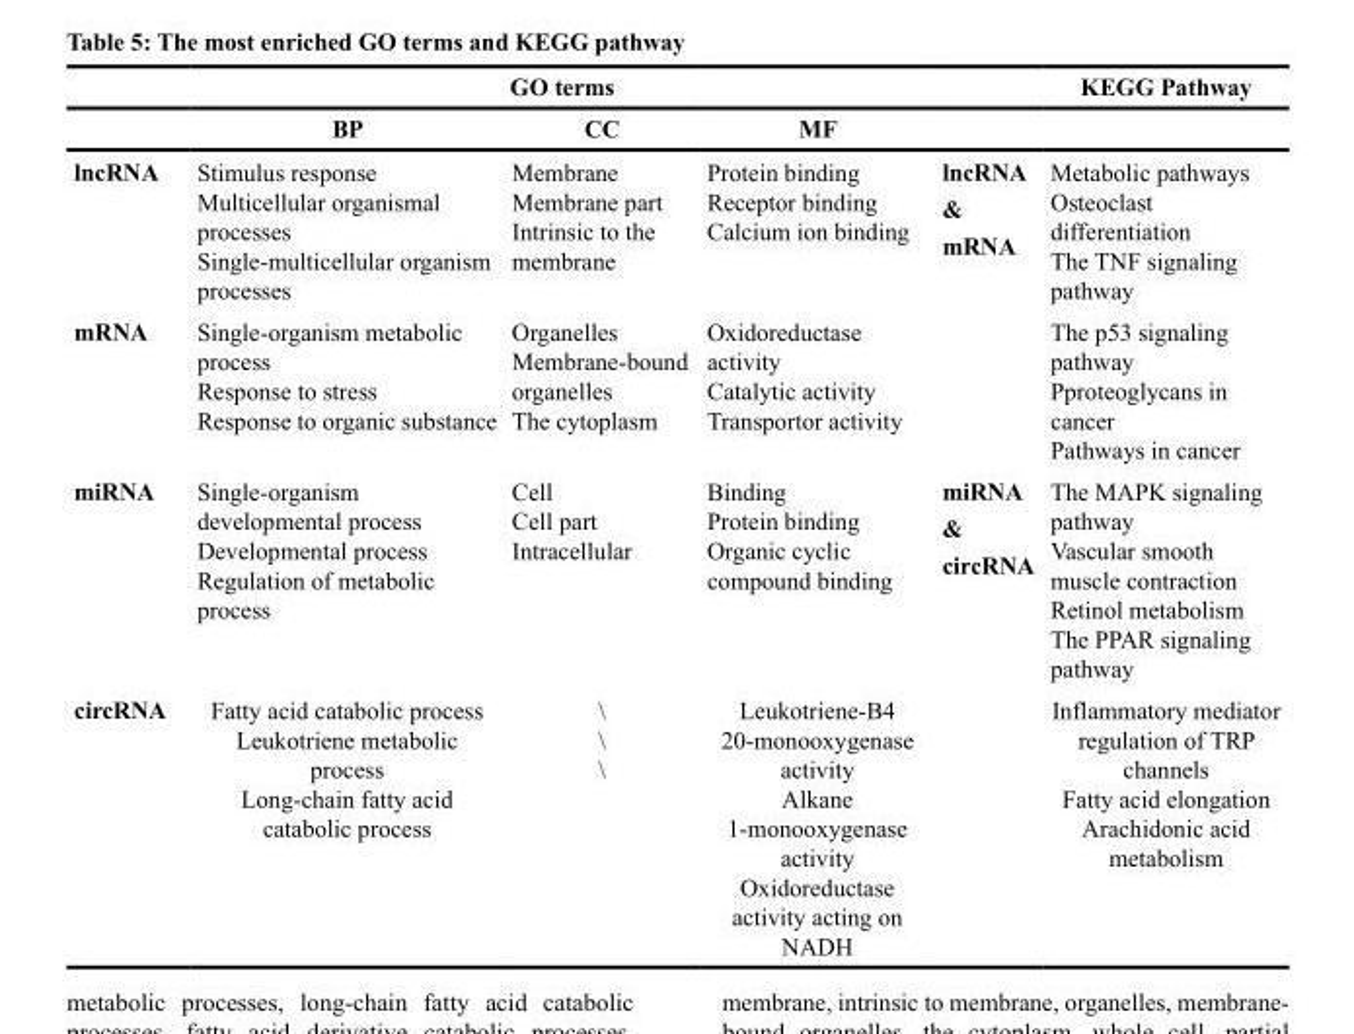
<table><thead><tr><td rowspan="2"></td><td colspan="3">GO terms</td><td rowspan="2"></td><td rowspan="2">KEGG Pathway</td></tr><tr><td>BP</td><td>CC</td><td>MF</td></tr></thead><tbody><tr><td>lncRNA</td><td>Stimulus response Multicellular organismal processes Single-multicellular organism processes</td><td>Membrane Membrane part Intrinsic to the membrane</td><td>Protein binding Receptor binding Calcium ion binding</td><td>lncRNA &amp; mRNA</td><td>Metabolic pathways Osteoclast differentiation The TNF signaling pathway</td></tr><tr><td>mRNA</td><td>Single-organism metabolic process Response to stress Response to organic substance</td><td>Organelles Membrane-bound organelles The cytoplasm</td><td>Oxidoreductase activity Catalytic activity Transportor activity</td><td></td><td>The p53 signaling pathway Pproteoglycans in cancer Pathways in cancer</td></tr><tr><td>miRNA</td><td>Single-organism developmental process Developmental process Regulation of metabolic process</td><td>Cell Cell part Intracellular</td><td>Binding Protein binding Organic cyclic compound binding</td><td>miRNA &amp; circRNA</td><td>The MAPK signaling pathway Vascular smooth muscle contraction Retinol metabolism The PPAR signaling pathway</td></tr><tr><td>circRNA</td><td>Fatty acid catabolic process Leukotriene metabolic process Long-chain fatty acid catabolic process</td><td>\ \ \</td><td>Leukotriene-B4 20-monooxygenase activity Alkane 1-monooxygenase activity Oxidoreductase activity acting on NADH</td><td></td><td>Inflammatory mediator regulation of TRP channels Fatty acid elongation Arachidonic acid metabolism</td></tr></tbody></table>